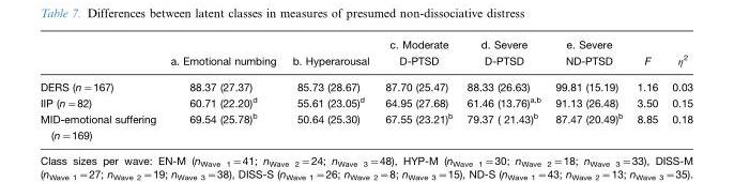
<table><thead><tr><td></td><td>a. Emotional numbing</td><td>b. Hyperarousal</td><td>c. Moderate D-PTSD</td><td>d. Severe D-PTSD</td><td>e. Severe ND-PTSD</td><td>F</td><td>η<sup>2</sup></td></tr></thead><tbody><tr><td>DERS (n=167)</td><td>88.37 (27.37)</td><td>85.73 (28.67)</td><td>87.70 (25.47)</td><td>88.33 (26.63)</td><td>99.81 (15.19)</td><td>1.16</td><td>0.03</td></tr><tr><td>IIP (n=82)</td><td>60.71 (22.20)<sup>d</sup></td><td>55.61 (23.05)<sup>d</sup></td><td>64.95 (27.68)</td><td>61.46 (13.76)<sup>a</sup>,<sup>b</sup></td><td>91.13 (26.48)</td><td>3.50</td><td>0.15</td></tr><tr><td>MID-emotional suffering (n=169)</td><td>69.54 (25.78)<sup>b</sup></td><td>50.64 (25.30)</td><td>67.55 (23.21)<sup>b</sup></td><td>79.37 ( 21.43)<sup>b</sup></td><td>87.47 (20.49)<sup>b</sup></td><td>8.85</td><td>0.18</td></tr></tbody></table>